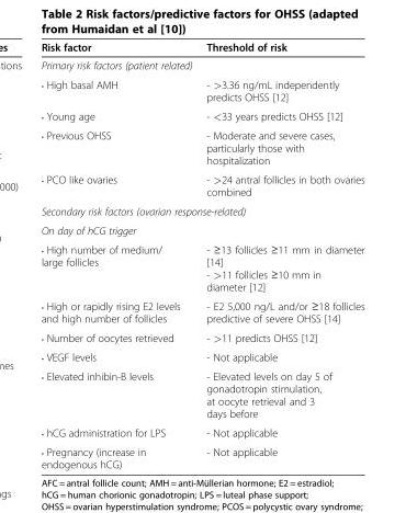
<table><thead><tr><td>Risk factor</td><td>Threshold of risk</td></tr></thead><tbody><tr><td colspan="2">Primary risk factors (patient related)</td></tr><tr><td>• High basal AMH</td><td>- &gt;3.36 ng/mL independently predicts OHSS [12]</td></tr><tr><td>• Young age</td><td>- &lt;33 years predicts OHSS [12]</td></tr><tr><td>• Previous OHSS</td><td>- Moderate and severe cases, particularly those with hospitalization</td></tr><tr><td>• PCO like ovaries</td><td>- &gt;24 antral follicles in both ovaries combined</td></tr><tr><td colspan="2">Secondary risk factors (ovarian response-related)</td></tr><tr><td colspan="2">On day of hCG trigger</td></tr><tr><td>• High number of medium/ large follicles</td><td>- ≥13 follicles ≥11 mm in diameter [14] - &gt;11 follicles ≥10 mm in diameter [12]</td></tr><tr><td>• High or rapidly rising E2 levels and high number of follicles</td><td>- E2 5,000 ng/L and/or ≥18 follicles predictive of severe OHSS [14]</td></tr><tr><td>• Number of oocytes retrieved</td><td>- &gt;11 predicts OHSS [12]</td></tr><tr><td>• VEGF levels</td><td>- Not applicable</td></tr><tr><td>• Elevated inhibin-B levels</td><td>- Elevated levels on day 5 of gonadotropin stimulation, at oocyte retrieval and 3 days before</td></tr><tr><td>• hCG administration for LPS</td><td>- Not applicable</td></tr><tr><td>• Pregnancy (increase in endogenous hCG)</td><td>- Not applicable</td></tr></tbody></table>